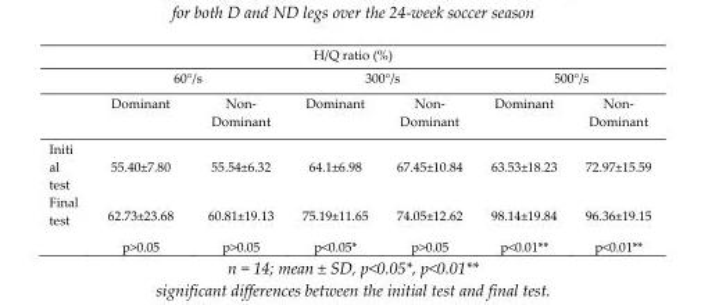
<table><thead><tr><td colspan="7">H/Q ratio (%)</td></tr><tr><td rowspan="2"></td><td colspan="2">60°/s</td><td colspan="2">300°/s</td><td colspan="2">500°/s</td></tr><tr><td>Dominant</td><td>Non- Dominant</td><td>Dominant</td><td>Non- Dominant</td><td>Dominant</td><td>Non- Dominant</td></tr></thead><tbody><tr><td>Initi al test</td><td>55.40±7.80</td><td>55.54±6.32</td><td>64.1±6.98</td><td>67.45±10.84</td><td>63.53±18.23</td><td>72.97±15.59</td></tr><tr><td rowspan="2">Final test</td><td>62.73±23.68</td><td>60.81±19.13</td><td>75.19±11.65</td><td>74.05±12.62</td><td>98.14±19.84</td><td>96.36±19.15</td></tr><tr><td>p&gt;0.05</td><td>p&gt;0.05</td><td>p&lt;0.05*</td><td>p&gt;0.05</td><td>p&lt;0.01**</td><td>p&lt;0.01**</td></tr></tbody></table>